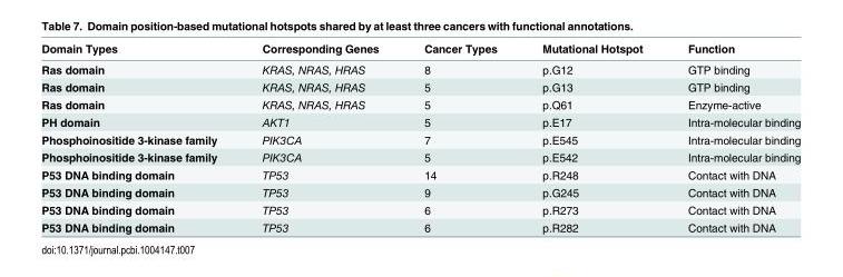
<table><thead><tr><td>Domain Types</td><td>Corresponding Genes</td><td>Cancer Types</td><td>Mutational Hotspot</td><td>Function</td></tr></thead><tbody><tr><td>Ras domain</td><td>KRAS, NRAS, HRAS</td><td>8</td><td>p.G12</td><td>GTP binding</td></tr><tr><td>Ras domain</td><td>KRAS, NRAS, HRAS</td><td>5</td><td>p.G13</td><td>GTP binding</td></tr><tr><td>Ras domain</td><td>KRAS, NRAS, HRAS</td><td>5</td><td>p.Q61</td><td>Enzyme-active</td></tr><tr><td>PH domain</td><td>AKT1</td><td>5</td><td>p.E17</td><td>Intra-molecular binding</td></tr><tr><td>Phosphoinositide 3-kinase family</td><td>PIK3CA</td><td>7</td><td>p.E545</td><td>Intra-molecular binding</td></tr><tr><td>Phosphoinositide 3-kinase family</td><td>PIK3CA</td><td>5</td><td>p.E542</td><td>Intra-molecular binding</td></tr><tr><td>P53 DNA binding domain</td><td>TP53</td><td>14</td><td>p.R248</td><td>Contact with DNA</td></tr><tr><td>P53 DNA binding domain</td><td>TP53</td><td>9</td><td>p.G245</td><td>Contact with DNA</td></tr><tr><td>P53 DNA binding domain</td><td>TP53</td><td>6</td><td>p.R273</td><td>Contact with DNA</td></tr><tr><td>P53 DNA binding domain</td><td>TP53</td><td>6</td><td>p.R282</td><td>Contact with DNA</td></tr></tbody></table>